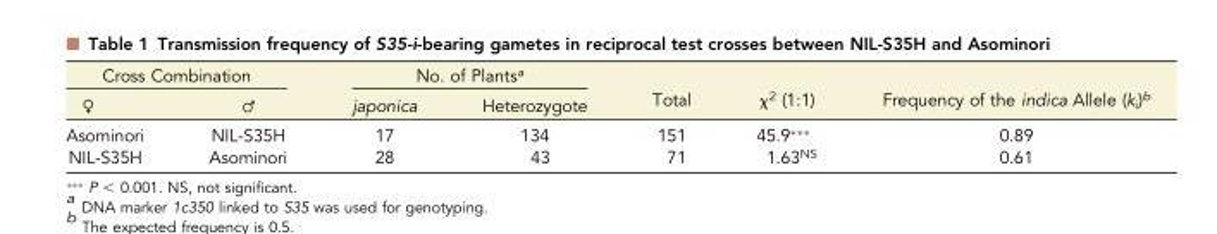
<table><thead><tr><td colspan="2">Cross Combination</td><td colspan="2">No. of Plants<sup>a</sup></td><td rowspan="2">Total</td><td rowspan="2">χ<sup>2</sup> (1:1)</td><td rowspan="2">Frequency of the indica Allele (k<sub>i</sub>)<sup>b</sup></td></tr><tr><td>♀</td><td>♂</td><td>japonica</td><td>Heterozygote</td></tr></thead><tbody><tr><td>Asominori</td><td>NIL-S35H</td><td>17</td><td>134</td><td>151</td><td>45.9***</td><td>0.89</td></tr><tr><td>NIL-S35H</td><td>Asominori</td><td>28</td><td>43</td><td>71</td><td>1.63<sup>NS</sup></td><td>0.61</td></tr></tbody></table>